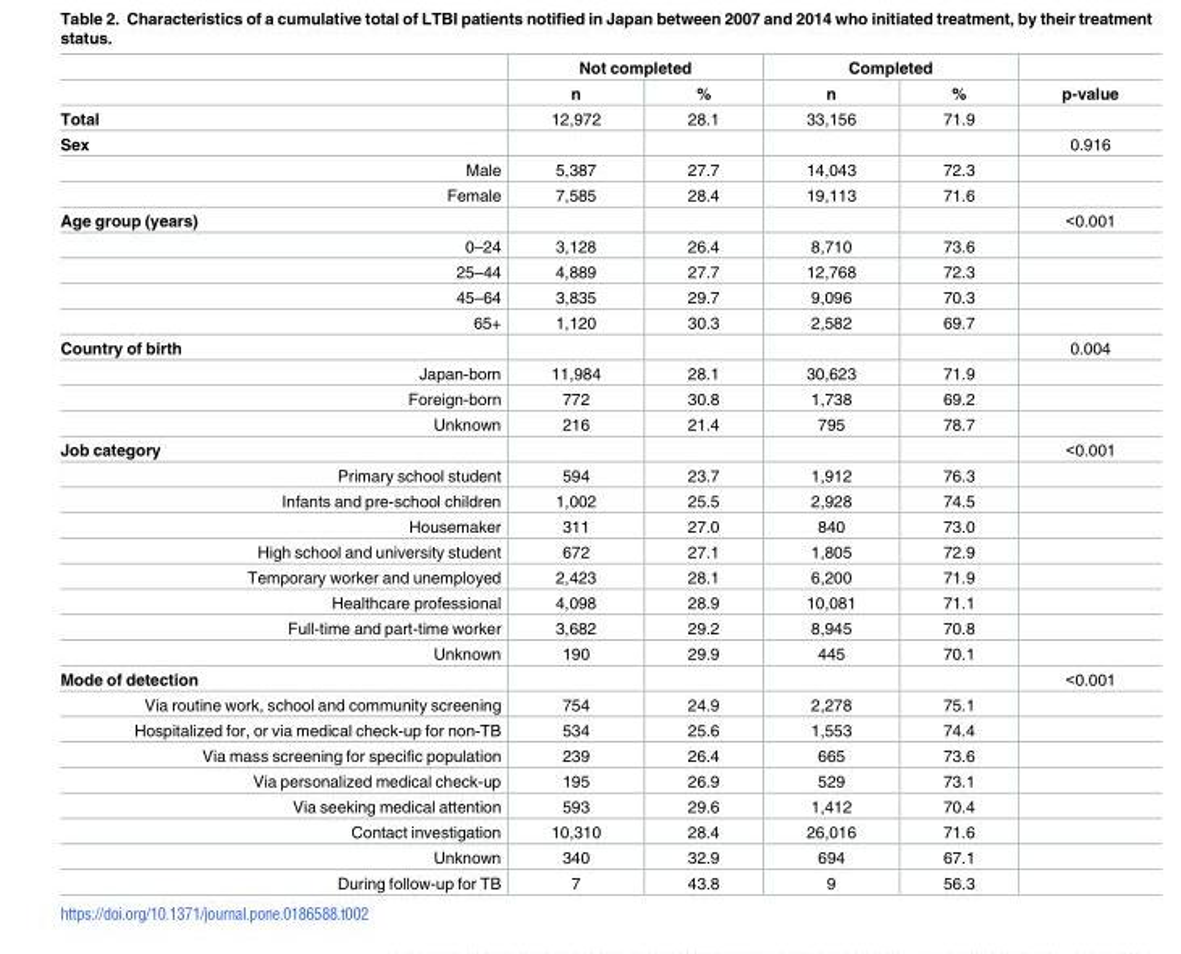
<table><thead><tr><td rowspan="2"></td><td colspan="2">Not completed</td><td colspan="2">Completed</td><td rowspan="2">p-value</td></tr><tr><td>n</td><td>%</td><td>n</td><td>%</td></tr></thead><tbody><tr><td>Total</td><td>12,972</td><td>28.1</td><td>33,156</td><td>71.9</td><td></td></tr><tr><td>Sex</td><td></td><td></td><td></td><td></td><td>0.916</td></tr><tr><td>Male</td><td>5,387</td><td>27.7</td><td>14,043</td><td>72.3</td><td></td></tr><tr><td>Female</td><td>7,585</td><td>28.4</td><td>19,113</td><td>71.6</td><td></td></tr><tr><td>Age group (years)</td><td></td><td></td><td></td><td></td><td>&lt;0.001</td></tr><tr><td>0–24</td><td>3,128</td><td>26.4</td><td>8,710</td><td>73.6</td><td></td></tr><tr><td>25–44</td><td>4,889</td><td>27.7</td><td>12,768</td><td>72.3</td><td></td></tr><tr><td>45–64</td><td>3,835</td><td>29.7</td><td>9,096</td><td>70.3</td><td></td></tr><tr><td>65+</td><td>1,120</td><td>30.3</td><td>2,582</td><td>69.7</td><td></td></tr><tr><td>Country of birth</td><td></td><td></td><td></td><td></td><td>0.004</td></tr><tr><td>Japan-born</td><td>11,984</td><td>28.1</td><td>30,623</td><td>71.9</td><td></td></tr><tr><td>Foreign-born</td><td>772</td><td>30.8</td><td>1,738</td><td>69.2</td><td></td></tr><tr><td>Unknown</td><td>216</td><td>21.4</td><td>795</td><td>78.7</td><td></td></tr><tr><td>Job category</td><td></td><td></td><td></td><td></td><td>&lt;0.001</td></tr><tr><td>Primary school student</td><td>594</td><td>23.7</td><td>1,912</td><td>76.3</td><td></td></tr><tr><td>Infants and pre-school children</td><td>1,002</td><td>25.5</td><td>2,928</td><td>74.5</td><td></td></tr><tr><td>Housemaker</td><td>311</td><td>27.0</td><td>840</td><td>73.0</td><td></td></tr><tr><td>High school and university student</td><td>672</td><td>27.1</td><td>1,805</td><td>72.9</td><td></td></tr><tr><td>Temporary worker and unemployed</td><td>2,423</td><td>28.1</td><td>6,200</td><td>71.9</td><td></td></tr><tr><td>Healthcare professional</td><td>4,098</td><td>28.9</td><td>10,081</td><td>71.1</td><td></td></tr><tr><td>Full-time and part-time worker</td><td>3,682</td><td>29.2</td><td>8,945</td><td>70.8</td><td></td></tr><tr><td>Unknown</td><td>190</td><td>29.9</td><td>445</td><td>70.1</td><td></td></tr><tr><td>Mode of detection</td><td></td><td></td><td></td><td></td><td>&lt;0.001</td></tr><tr><td>Via routine work, school and community screening</td><td>754</td><td>24.9</td><td>2,278</td><td>75.1</td><td></td></tr><tr><td>Hospitalized for, or via medical check-up for non-TB</td><td>534</td><td>25.6</td><td>1,553</td><td>74.4</td><td></td></tr><tr><td>Via mass screening for specific population</td><td>239</td><td>26.4</td><td>665</td><td>73.6</td><td></td></tr><tr><td>Via personalized medical check-up</td><td>195</td><td>26.9</td><td>529</td><td>73.1</td><td></td></tr><tr><td>Via seeking medical attention</td><td>593</td><td>29.6</td><td>1,412</td><td>70.4</td><td></td></tr><tr><td>Contact investigation</td><td>10,310</td><td>28.4</td><td>26,016</td><td>71.6</td><td></td></tr><tr><td>Unknown</td><td>340</td><td>32.9</td><td>694</td><td>67.1</td><td></td></tr><tr><td>During follow-up for TB</td><td>7</td><td>43.8</td><td>9</td><td>56.3</td><td></td></tr></tbody></table>